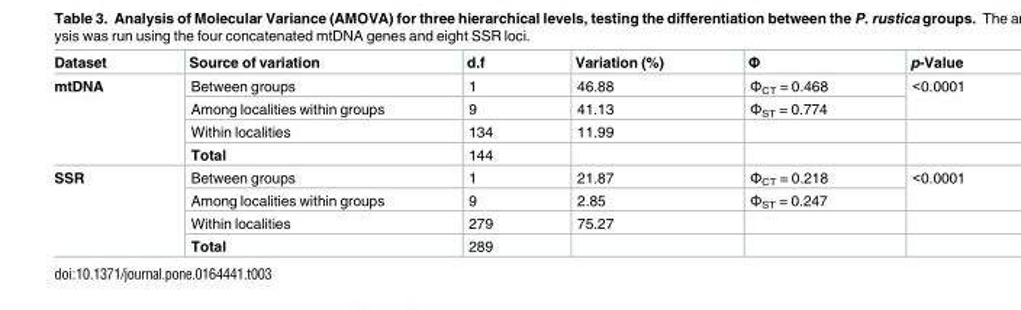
<table><thead><tr><td>Dataset</td><td>Source of variation</td><td>d.f</td><td>Variation (%)</td><td>Φ</td><td>p-Value</td></tr></thead><tbody><tr><td rowspan="4">mtDNA</td><td>Between groups</td><td>1</td><td>46.88</td><td>Φ<sub>CT</sub> = 0.468</td><td rowspan="2">&lt;0.0001</td></tr><tr><td>Among localities within groups</td><td>9</td><td>41.13</td><td>Φ<sub>ST</sub> = 0.774</td></tr><tr><td>Within localities</td><td>134</td><td>11.99</td><td></td><td></td></tr><tr><td>Total</td><td>144</td><td></td><td></td><td></td></tr><tr><td rowspan="4">SSR</td><td>Between groups</td><td>1</td><td>21.87</td><td>Φ<sub>CT</sub> = 0.218</td><td rowspan="2">&lt;0.0001</td></tr><tr><td>Among localities within groups</td><td>9</td><td>2.85</td><td>Φ<sub>ST</sub> = 0.247</td></tr><tr><td>Within localities</td><td>279</td><td>75.27</td><td></td><td></td></tr><tr><td>Total</td><td>289</td><td></td><td></td><td></td></tr></tbody></table>